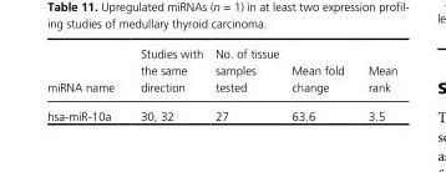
<table><thead><tr><td>miRNA name</td><td>Studies with the same direction</td><td>No. of tissue samples tested</td><td>Mean fold change</td><td>Mean rank</td></tr></thead><tbody><tr><td>hsa- miR- 10a</td><td>30, 32</td><td>27</td><td>63.6</td><td>3.5</td></tr></tbody></table>